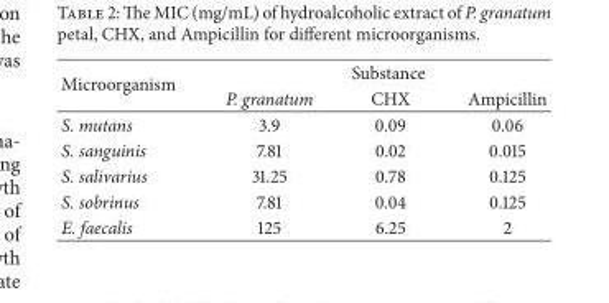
<table><thead><tr><td rowspan="2">Microorganism</td><td colspan="3">Substance</td></tr><tr><td>P. granatum</td><td>CHX</td><td>Ampicillin</td></tr></thead><tbody><tr><td>S. mutans</td><td>3.9</td><td>0.09</td><td>0.06</td></tr><tr><td>S. sanguinis</td><td>7.81</td><td>0.02</td><td>0.015</td></tr><tr><td>S. salivarius</td><td>31.25</td><td>0.78</td><td>0.125</td></tr><tr><td>S. sobrinus</td><td>7.81</td><td>0.04</td><td>0.125</td></tr><tr><td>E. faecalis</td><td>125</td><td>6.25</td><td>2</td></tr></tbody></table>